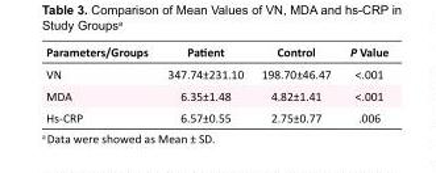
<table><tbody><tr><td>Parameters/Groups</td><td>Patient</td><td>Control</td><td>P Value</td></tr><tr><td>VN</td><td>347.74±231.10</td><td>198.70±46.47</td><td>&lt;.001</td></tr><tr><td>MDA</td><td>6.35±1.48</td><td>4.82±1.41</td><td>&lt;.001</td></tr><tr><td>Hs-CRP</td><td>6.57±0.55</td><td>2.75±0.77</td><td>.006</td></tr></tbody></table>